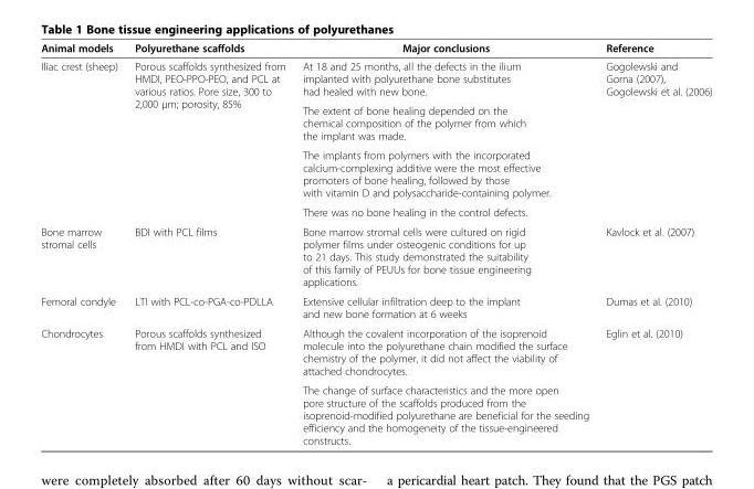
<table><thead><tr><td>Animal models</td><td>Polyurethane scaffolds</td><td>Major conclusions</td><td>Reference</td></tr></thead><tbody><tr><td rowspan="4">Iliac crest (sheep)</td><td rowspan="4">Porous scaffolds synthesized from HMDI, PEO-PPO-PEO, and PCL at various ratios. Pore size, 300 to 2,000 μm; porosity, 85%</td><td>At 18 and 25 months, all the defects in the ilium implanted with polyurethane bone substitutes had healed with new bone.</td><td rowspan="4">Gogolewski and Gorna (2007), Gogolewski et al. (2006)</td></tr><tr><td>The extent of bone healing depended on the chemical composition of the polymer from which the implant was made.</td></tr><tr><td>The implants from polymers with the incorporated calcium-complexing additive were the most effective promoters of bone healing, followed by those with vitamin D and polysaccharide-containing polymer.</td></tr><tr><td>There was no bone healing in the control defects.</td></tr><tr><td>Bone marrow stromal cells</td><td>BDI with PCL films</td><td>Bone marrow stromal cells were cultured on rigid polymer films under osteogenic conditions for up to 21 days. This study demonstrated the suitability of this family of PEUUs for bone tissue engineering applications.</td><td>Kavlock et al. (2007)</td></tr><tr><td>Femoral condyle</td><td>LTI with PCL-co-PGA-co-PDLLA</td><td>Extensive cellular infiltration deep to the implant and new bone formation at 6 weeks</td><td>Dumas et al. (2010)</td></tr><tr><td rowspan="2">Chondrocytes</td><td>Porous scaffolds synthesized from HMDI with PCL and ISO</td><td>Although the covalent incorporation of the isoprenoid molecule into the polyurethane chain modified the surface chemistry of the polymer, it did not affect the viability of attached chondrocytes.</td><td>Eglin et al. (2010)</td></tr><tr><td></td><td>The change of surface characteristics and the more open pore structure of the scaffolds produced from the isoprenoid-modified polyurethane are beneficial for the seeding efficiency and the homogeneity of the tissue-engineered constructs.</td><td></td></tr></tbody></table>